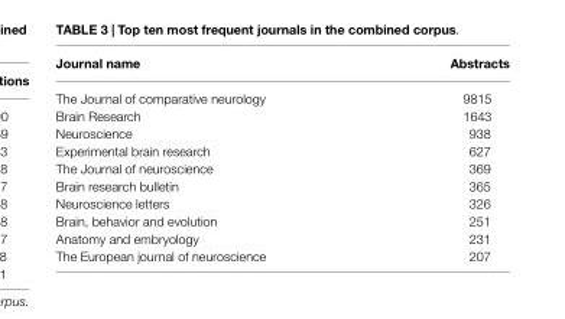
<table><thead><tr><td>Journal name</td><td>Abstracts</td></tr></thead><tbody><tr><td>The Journal of comparative neurology</td><td>9815</td></tr><tr><td>Brain Research</td><td>1643</td></tr><tr><td>Neuroscience</td><td>938</td></tr><tr><td>Experimental brain research</td><td>627</td></tr><tr><td>The Journal of neuroscience</td><td>369</td></tr><tr><td>Brain research bulletin</td><td>365</td></tr><tr><td>Neuroscience letters</td><td>326</td></tr><tr><td>Brain, behavior and evolution</td><td>251</td></tr><tr><td>Anatomy and embryology</td><td>231</td></tr><tr><td>The European journal of neuroscience</td><td>207</td></tr></tbody></table>